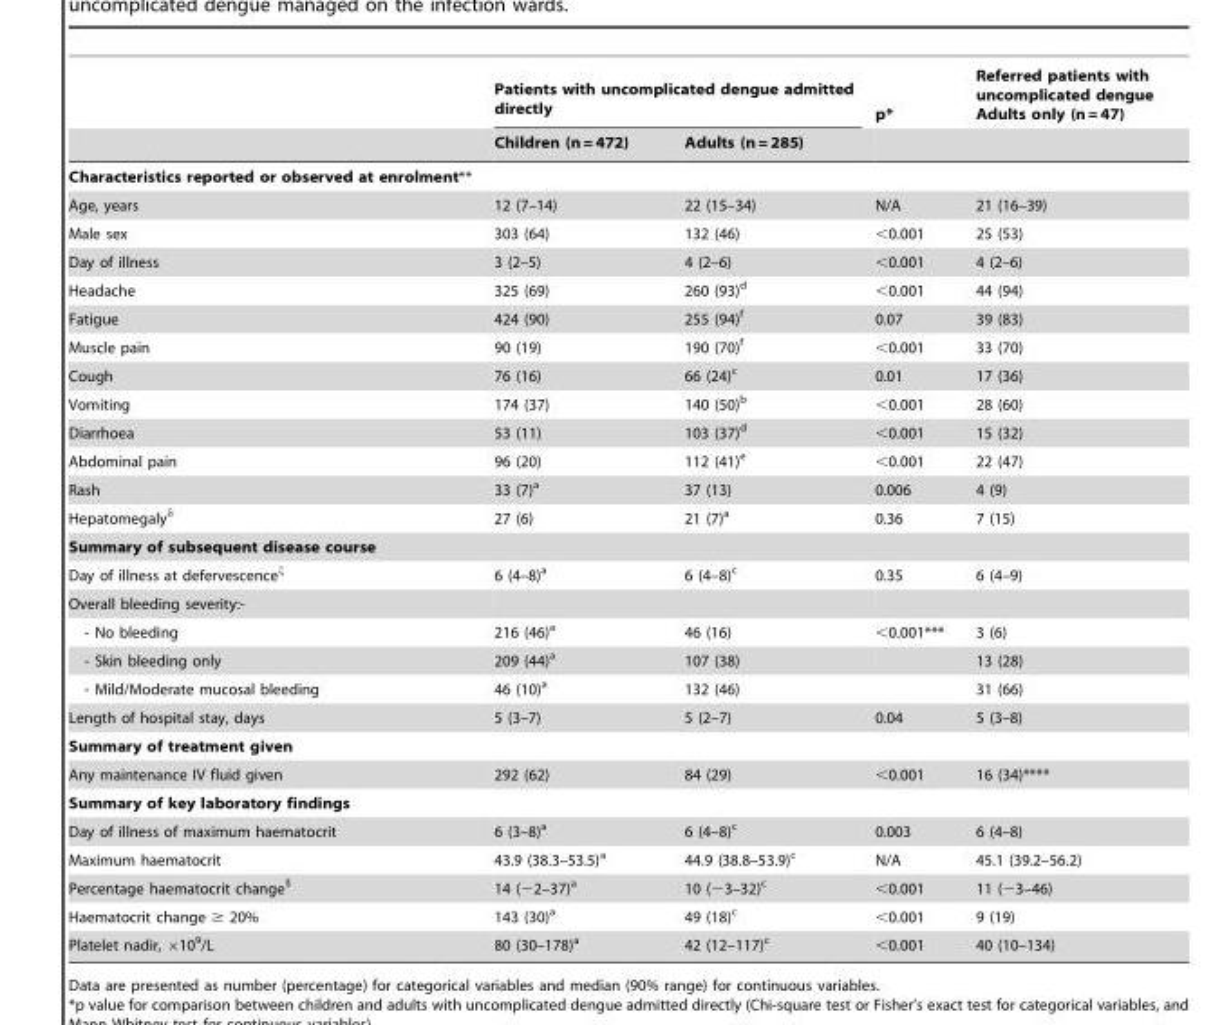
<table><thead><tr><td rowspan="2"></td><td colspan="2">Patients with uncomplicated dengue admitted directly</td><td rowspan="2">p*</td><td rowspan="2">Referred patients with uncomplicated dengue Adults only (n = 47)</td></tr><tr><td>Children (n = 472)</td><td>Adults (n = 285)</td></tr></thead><tbody><tr><td colspan="5">Characteristics reported or observed at enrolment**</td></tr><tr><td>Age, years</td><td>12 (7–14)</td><td>22 (15–34)</td><td>N/A</td><td>21 (16–39)</td></tr><tr><td>Male sex</td><td>303 (64)</td><td>132 (46)</td><td>&lt;0.001</td><td>25 (53)</td></tr><tr><td>Day of illness</td><td>3 (2–5)</td><td>4 (2–6)</td><td>&lt;0.001</td><td>4 (2–6)</td></tr><tr><td>Headache</td><td>325 (69)</td><td>260 (93)<sup>d</sup></td><td>&lt;0.001</td><td>44 (94)</td></tr><tr><td>Fatigue</td><td>424 (90)</td><td>255 (94)<sup>f</sup></td><td>0.07</td><td>39 (83)</td></tr><tr><td>Muscle pain</td><td>90 (19)</td><td>190 (70)<sup>f</sup></td><td>&lt;0.001</td><td>33 (70)</td></tr><tr><td>Cough</td><td>76 (16)</td><td>66 (24)<sup>c</sup></td><td>0.01</td><td>17 (36)</td></tr><tr><td>Vomiting</td><td>174 (37)</td><td>140 (50)<sup>b</sup></td><td>&lt;0.001</td><td>28 (60)</td></tr><tr><td>Diarrhoea</td><td>53 (11)</td><td>103 (37)<sup>d</sup></td><td>&lt;0.001</td><td>15 (32)</td></tr><tr><td>Abdominal pain</td><td>96 (20)</td><td>112 (41)<sup>e</sup></td><td>&lt;0.001</td><td>22 (47)</td></tr><tr><td>Rash</td><td>33 (7)<sup>a</sup></td><td>37 (13)</td><td>0.006</td><td>4 (9)</td></tr><tr><td>Hepatomegalyδ</td><td>27 (6)</td><td>21 (7)<sup>a</sup></td><td>0.36</td><td>7 (15)</td></tr><tr><td colspan="5">Summary of subsequent disease course</td></tr><tr><td>Day of illness at defervescenceξ</td><td>6 (4–8)<sup>a</sup></td><td>6 (4–8)<sup>c</sup></td><td>0.35</td><td>6 (4–9)</td></tr><tr><td colspan="5">Overall bleeding severity:-</td></tr><tr><td>- No bleeding</td><td>216 (46)<sup>a</sup></td><td>46 (16)</td><td>&lt;0.001***</td><td>3 (6)</td></tr><tr><td>- Skin bleeding only</td><td>209 (44)<sup>a</sup></td><td>107 (38)</td><td></td><td>13 (28)</td></tr><tr><td>- Mild/Moderate mucosal bleeding</td><td>46 (10)<sup>a</sup></td><td>132 (46)</td><td></td><td>31 (66)</td></tr><tr><td>Length of hospital stay, days</td><td>5 (3–7)</td><td>5 (2–7)</td><td>0.04</td><td>5 (3–8)</td></tr><tr><td colspan="5">Summary of treatment given</td></tr><tr><td>Any maintenance IV fluid given</td><td>292 (62)</td><td>84 (29)</td><td>&lt;0.001</td><td>16 (34)****</td></tr><tr><td colspan="5">Summary of key laboratory findings</td></tr><tr><td>Day of illness of maximum haematocrit</td><td>6 (3–8)<sup>a</sup></td><td>6 (4–8)<sup>c</sup></td><td>0.003</td><td>6 (4–8)</td></tr><tr><td>Maximum haematocrit</td><td>43.9 (38.3–53.5)<sup>a</sup></td><td>44.9 (38.8–53.9)<sup>c</sup></td><td>N/A</td><td>45.1 (39.2–56.2)</td></tr><tr><td>Percentage haematocrit change§</td><td>14 (−2–37)<sup>a</sup></td><td>10 (−3–32)<sup>c</sup></td><td>&lt;0.001</td><td>11 (−3–46)</td></tr><tr><td>Haematocrit change ≥ 20%</td><td>143 (30)<sup>a</sup></td><td>49 (18)<sup>c</sup></td><td>&lt;0.001</td><td>9 (19)</td></tr><tr><td>Platelet nadir, ×10<sup>9</sup>/L</td><td>80 (30–178)<sup>a</sup></td><td>42 (12–117)<sup>c</sup></td><td>&lt;0.001</td><td>40 (10–134)</td></tr></tbody></table>